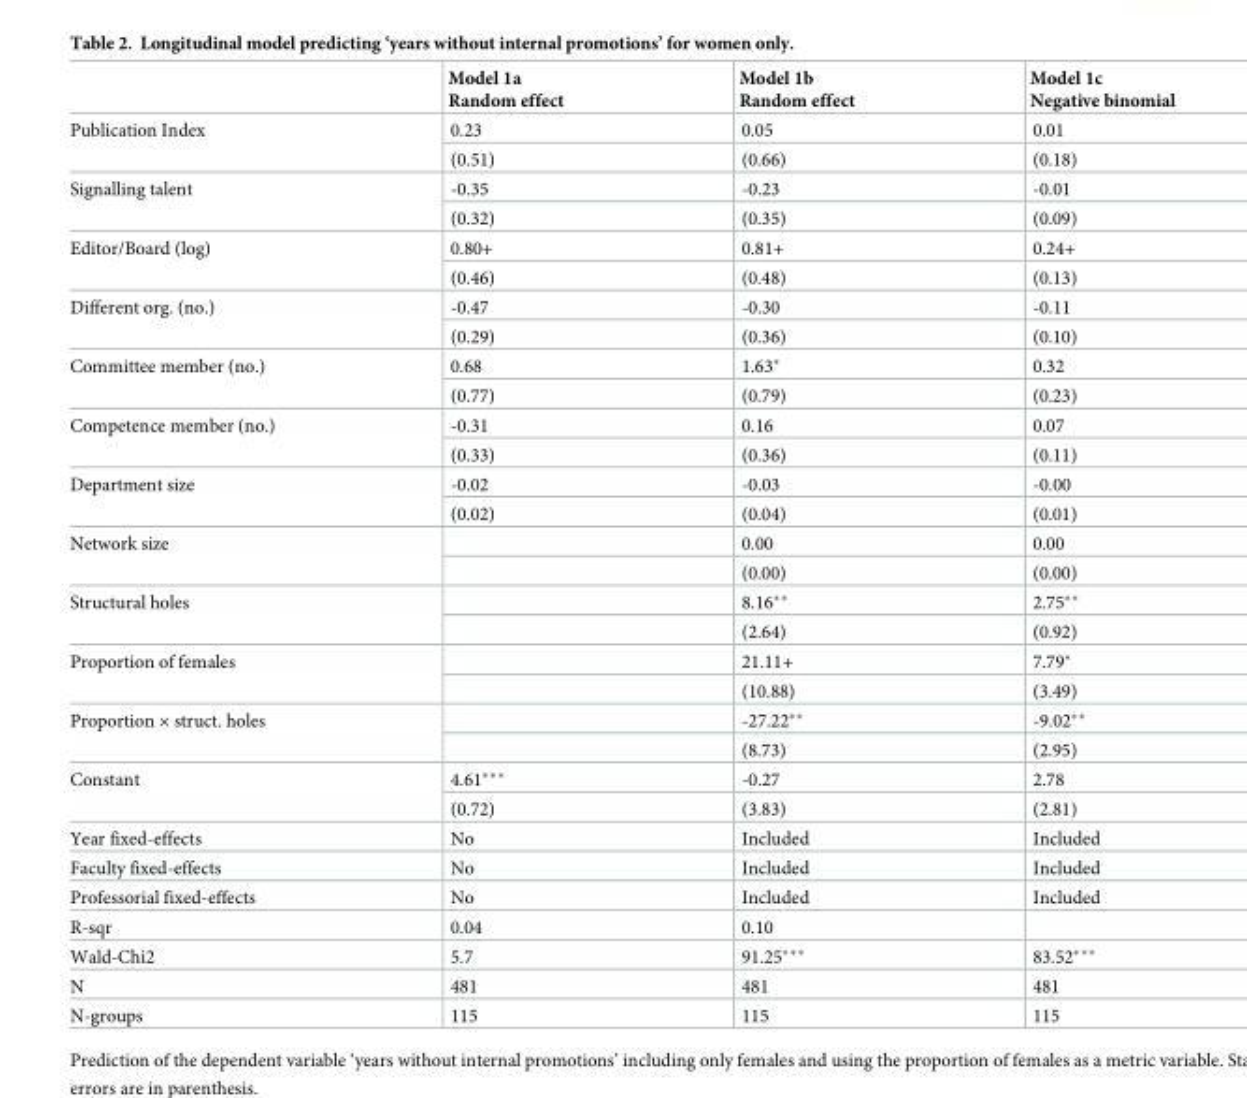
<table><thead><tr><td></td><td>Model 1a Random effect</td><td>Model 1b Random effect</td><td>Model 1c Negative binomial</td></tr></thead><tbody><tr><td rowspan="2">Publication Index</td><td>0.23</td><td>0.05</td><td>0.01</td></tr><tr><td>(0.51)</td><td>(0.66)</td><td>(0.18)</td></tr><tr><td rowspan="2">Signalling talent</td><td>-0.35</td><td>-0.23</td><td>-0.01</td></tr><tr><td>(0.32)</td><td>(0.35)</td><td>(0.09)</td></tr><tr><td rowspan="2">Editor/Board (log)</td><td>0.80+</td><td>0.81+</td><td>0.24+</td></tr><tr><td>(0.46)</td><td>(0.48)</td><td>(0.13)</td></tr><tr><td rowspan="2">Different org. (no.)</td><td>-0.47</td><td>-0.30</td><td>-0.11</td></tr><tr><td>(0.29)</td><td>(0.36)</td><td>(0.10)</td></tr><tr><td rowspan="2">Committee member (no.)</td><td>0.68</td><td>1.63*</td><td>0.32</td></tr><tr><td>(0.77)</td><td>(0.79)</td><td>(0.23)</td></tr><tr><td rowspan="2">Competence member (no.)</td><td>-0.31</td><td>0.16</td><td>0.07</td></tr><tr><td>(0.33)</td><td>(0.36)</td><td>(0.11)</td></tr><tr><td rowspan="2">Department size</td><td>-0.02</td><td>-0.03</td><td>-0.00</td></tr><tr><td>(0.02)</td><td>(0.04)</td><td>(0.01)</td></tr><tr><td rowspan="2">Network size</td><td></td><td>0.00</td><td>0.00</td></tr><tr><td></td><td>(0.00)</td><td>(0.00)</td></tr><tr><td rowspan="2">Structural holes</td><td></td><td>8.16**</td><td>2.75**</td></tr><tr><td></td><td>(2.64)</td><td>(0.92)</td></tr><tr><td rowspan="2">Proportion of females</td><td></td><td>21.11+</td><td>7.79*</td></tr><tr><td></td><td>(10.88)</td><td>(3.49)</td></tr><tr><td rowspan="2">Proportion × struct. holes</td><td></td><td>-27.22**</td><td>-9.02**</td></tr><tr><td></td><td>(8.73)</td><td>(2.95)</td></tr><tr><td rowspan="2">Constant</td><td>4.61***</td><td>-0.27</td><td>2.78</td></tr><tr><td>(0.72)</td><td>(3.83)</td><td>(2.81)</td></tr><tr><td>Year fixed-effects</td><td>No</td><td>Included</td><td>Included</td></tr><tr><td>Faculty fixed-effects</td><td>No</td><td>Included</td><td>Included</td></tr><tr><td>Professorial fixed-effects</td><td>No</td><td>Included</td><td>Included</td></tr><tr><td>R-sqr</td><td>0.04</td><td>0.10</td><td></td></tr><tr><td>Wald-Chi2</td><td>5.7</td><td>91.25***</td><td>83.52***</td></tr><tr><td>N</td><td>481</td><td>481</td><td>481</td></tr><tr><td>N-groups</td><td>115</td><td>115</td><td>115</td></tr></tbody></table>